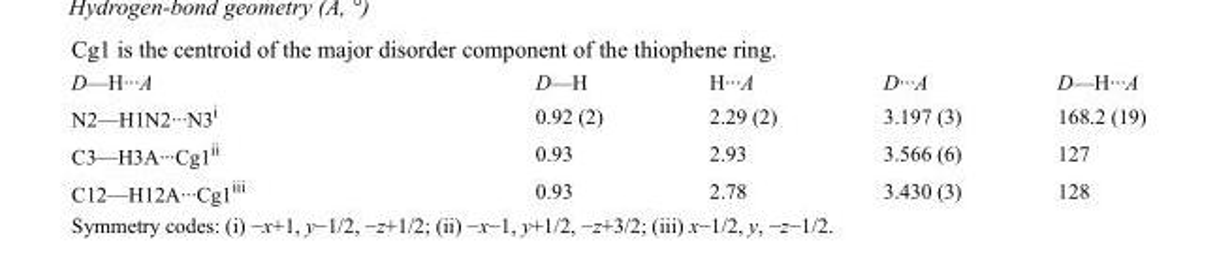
<table><tbody><tr><td>D—H···A</td><td>D—H</td><td>H···A</td><td>D···A</td><td>D—H···A</td></tr><tr><td>N2—H1N2···N3<sup>i</sup></td><td>0.92 (2)</td><td>2.29 (2)</td><td>3.197 (3)</td><td>168.2 (19)</td></tr><tr><td>C3—H3A···Cg1<sup>ii</sup></td><td>0.93</td><td>2.93</td><td>3.566 (6)</td><td>127</td></tr><tr><td>C12—H12A···Cg1<sup>iii</sup></td><td>0.93</td><td>2.78</td><td>3.430 (3)</td><td>128</td></tr></tbody></table>